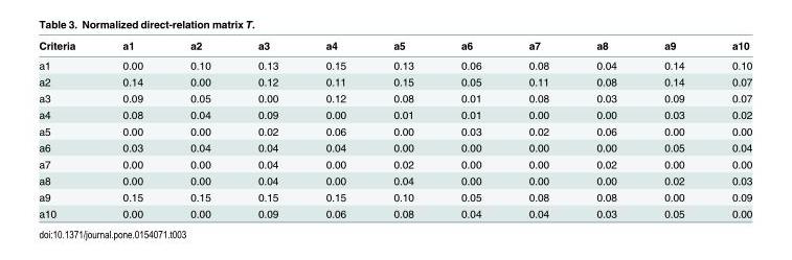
<table><thead><tr><td>Criteria</td><td>a1</td><td>a2</td><td>a3</td><td>a4</td><td>a5</td><td>a6</td><td>a7</td><td>a8</td><td>a9</td><td>a10</td></tr></thead><tbody><tr><td>a1</td><td>0.00</td><td>0.10</td><td>0.13</td><td>0.15</td><td>0.13</td><td>0.06</td><td>0.08</td><td>0.04</td><td>0.14</td><td>0.10</td></tr><tr><td>a2</td><td>0.14</td><td>0.00</td><td>0.12</td><td>0.11</td><td>0.15</td><td>0.05</td><td>0.11</td><td>0.08</td><td>0.14</td><td>0.07</td></tr><tr><td>a3</td><td>0.09</td><td>0.05</td><td>0.00</td><td>0.12</td><td>0.08</td><td>0.01</td><td>0.08</td><td>0.03</td><td>0.09</td><td>0.07</td></tr><tr><td>a4</td><td>0.08</td><td>0.04</td><td>0.09</td><td>0.00</td><td>0.01</td><td>0.01</td><td>0.00</td><td>0.00</td><td>0.03</td><td>0.02</td></tr><tr><td>a5</td><td>0.00</td><td>0.00</td><td>0.02</td><td>0.06</td><td>0.00</td><td>0.03</td><td>0.02</td><td>0.06</td><td>0.00</td><td>0.00</td></tr><tr><td>a6</td><td>0.03</td><td>0.04</td><td>0.04</td><td>0.04</td><td>0.00</td><td>0.00</td><td>0.00</td><td>0.00</td><td>0.05</td><td>0.04</td></tr><tr><td>a7</td><td>0.00</td><td>0.00</td><td>0.04</td><td>0.00</td><td>0.02</td><td>0.00</td><td>0.00</td><td>0.02</td><td>0.00</td><td>0.00</td></tr><tr><td>a8</td><td>0.00</td><td>0.00</td><td>0.04</td><td>0.00</td><td>0.04</td><td>0.00</td><td>0.00</td><td>0.00</td><td>0.02</td><td>0.03</td></tr><tr><td>a9</td><td>0.15</td><td>0.15</td><td>0.15</td><td>0.15</td><td>0.10</td><td>0.05</td><td>0.08</td><td>0.08</td><td>0.00</td><td>0.09</td></tr><tr><td>a10</td><td>0.00</td><td>0.00</td><td>0.09</td><td>0.06</td><td>0.08</td><td>0.04</td><td>0.04</td><td>0.03</td><td>0.05</td><td>0.00</td></tr></tbody></table>